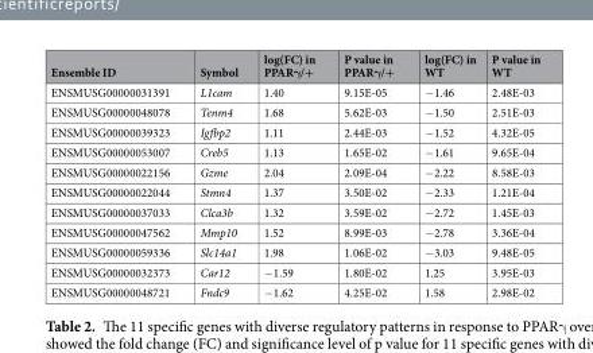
<table><thead><tr><td>Ensemble ID</td><td>Symbol</td><td>log(FC) in PPARγ/+</td><td>P value in PPARγ/+</td><td>log(FC) in WT</td><td>P value in WT</td></tr></thead><tbody><tr><td>ENSMUSG00000031391</td><td>L1cam</td><td>1.40</td><td>9.15E-05</td><td>−1.46</td><td>2.48E-03</td></tr><tr><td>ENSMUSG00000048078</td><td>Tenm4</td><td>1.68</td><td>5.62E-03</td><td>−1.50</td><td>2.51E-03</td></tr><tr><td>ENSMUSG00000039323</td><td>Igfbp2</td><td>1.11</td><td>2.44E-03</td><td>−1.52</td><td>4.32E-05</td></tr><tr><td>ENSMUSG00000053007</td><td>Creb5</td><td>1.13</td><td>1.65E-02</td><td>−1.61</td><td>9.65E-04</td></tr><tr><td>ENSMUSG00000022156</td><td>Gzme</td><td>2.04</td><td>2.09E-04</td><td>−2.22</td><td>8.58E-03</td></tr><tr><td>ENSMUSG00000022044</td><td>Stmn4</td><td>1.37</td><td>3.50E-02</td><td>−2.33</td><td>1.21E-04</td></tr><tr><td>ENSMUSG00000037033</td><td>Clca3b</td><td>1.32</td><td>3.59E-02</td><td>−2.72</td><td>1.45E-03</td></tr><tr><td>ENSMUSG00000047562</td><td>Mmp10</td><td>1.52</td><td>8.99E-03</td><td>−2.78</td><td>3.36E-04</td></tr><tr><td>ENSMUSG00000059336</td><td>Slc14a1</td><td>1.98</td><td>1.06E-02</td><td>−3.03</td><td>9.48E-05</td></tr><tr><td>ENSMUSG00000032373</td><td>Car12</td><td>−1.59</td><td>1.80E-02</td><td>1.25</td><td>3.95E-03</td></tr><tr><td>ENSMUSG00000048721</td><td>Fndc9</td><td>−1.62</td><td>4.25E-02</td><td>1.58</td><td>2.98E-02</td></tr></tbody></table>